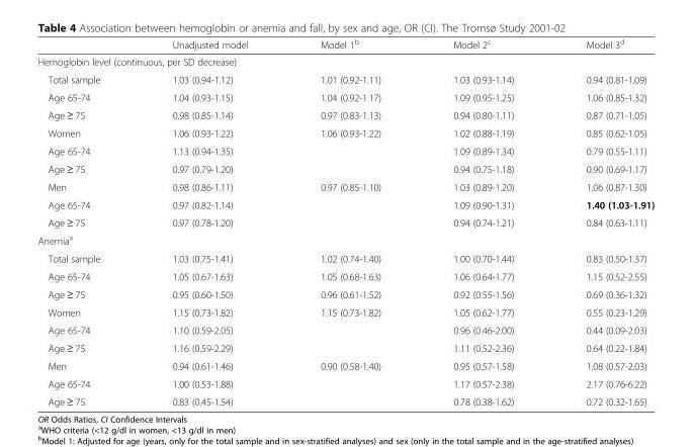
<table><thead><tr><td></td><td>Unadjusted model</td><td>Model 1<sup>b</sup></td><td>Model 2<sup>c</sup></td><td>Model 3<sup>d</sup></td></tr></thead><tbody><tr><td colspan="5">Hemoglobin level (continuous, per SD decrease)</td></tr><tr><td>Total sample</td><td>1.03 (0.94-1.12)</td><td>1.01 (0.92-1.11)</td><td>1.03 (0.93-1.14)</td><td>0.94 (0.81-1.09)</td></tr><tr><td>Age 65-74</td><td>1.04 (0.93-1.15)</td><td>1.04 (0.92-1.17)</td><td>1.09 (0.95-1.25)</td><td>1.06 (0.85-1.32)</td></tr><tr><td>Age ≥ 75</td><td>0.98 (0.85-1.14)</td><td>0.97 (0.83-1.13)</td><td>0.94 (0.80-1.11)</td><td>0.87 (0.71-1.05)</td></tr><tr><td>Women</td><td>1.06 (0.93-1.22)</td><td>1.06 (0.93-1.22)</td><td>1.02 (0.88-1.19)</td><td>0.85 (0.62-1.05)</td></tr><tr><td>Age 65-74</td><td>1.13 (0.94-1.35)</td><td></td><td>1.09 (0.89-1.34)</td><td>0.79 (0.55-1.11)</td></tr><tr><td>Age ≥ 75</td><td>0.97 (0.79-1.20)</td><td></td><td>0.94 (0.75-1.18)</td><td>0.90 (0.69-1.17)</td></tr><tr><td>Men</td><td>0.98 (0.86-1.11)</td><td>0.97 (0.85-1.10)</td><td>1.03 (0.89-1.20)</td><td>1.06 (0.87-1.30)</td></tr><tr><td>Age 65-74</td><td>0.97 (0.82-1.14)</td><td></td><td>1.09 (0.90-1.31)</td><td>1.40 (1.03-1.91)</td></tr><tr><td>Age ≥ 75</td><td>0.97 (0.78-1.20)</td><td></td><td>0.94 (0.74-1.21)</td><td>0.84 (0.63-1.11)</td></tr><tr><td colspan="5">Anemia<sup>a</sup></td></tr><tr><td>Total sample</td><td>1.03 (0.75-1.41)</td><td>1.02 (0.74-1.40)</td><td>1.00 (0.70-1.44)</td><td>0.83 (0.50-1.37)</td></tr><tr><td>Age 65-74</td><td>1.05 (0.67-1.63)</td><td>1.05 (0.68-1.63)</td><td>1.06 (0.64-1.77)</td><td>1.15 (0.52-2.55)</td></tr><tr><td>Age ≥ 75</td><td>0.95 (0.60-1.50)</td><td>0.96 (0.61-1.52)</td><td>0.92 (0.55-1.56)</td><td>0.69 (0.36-1.32)</td></tr><tr><td>Women</td><td>1.15 (0.73-1.82)</td><td>1.15 (0.73-1.82)</td><td>1.05 (0.62-1.77)</td><td>0.55 (0.23-1.29)</td></tr><tr><td>Age 65-74</td><td>1.10 (0.59-2.05)</td><td></td><td>0.96 (0.46-2.00)</td><td>0.44 (0.09-2.03)</td></tr><tr><td>Age ≥ 75</td><td>1.16 (0.59-2.29)</td><td></td><td>1.11 (0.52-2.36)</td><td>0.64 (0.22-1.84)</td></tr><tr><td>Men</td><td>0.94 (0.61-1.46)</td><td>0.90 (0.58-1.40)</td><td>0.95 (0.57-1.58)</td><td>1.08 (0.57-2.03)</td></tr><tr><td>Age 65-74</td><td>1.00 (0.53-1.88)</td><td></td><td>1.17 (0.57-2.38)</td><td>2.17 (0.76-6.22)</td></tr><tr><td>Age ≥ 75</td><td>0.83 (0.45-1.54)</td><td></td><td>0.78 (0.38-1.62)</td><td>0.72 (0.32-1.65)</td></tr></tbody></table>